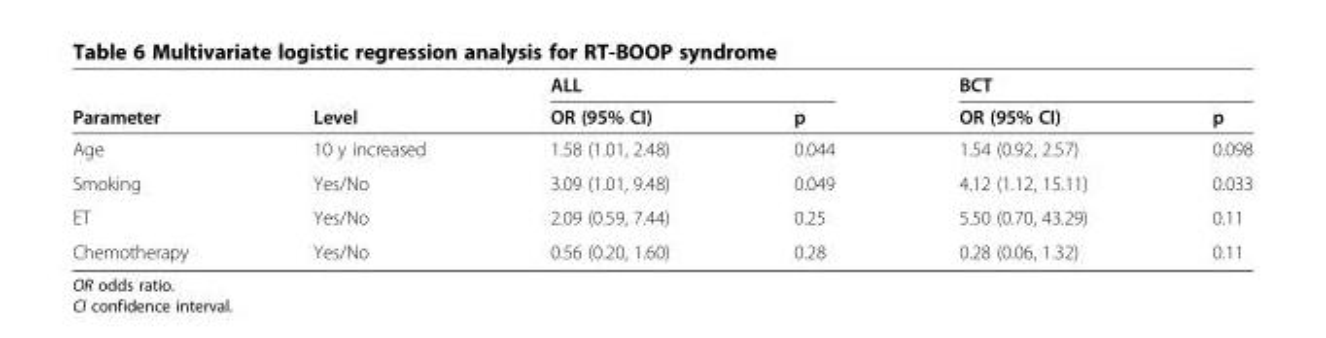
<table><thead><tr><td rowspan="2">Parameter</td><td rowspan="2">Level</td><td colspan="2">ALL</td><td colspan="2">BCT</td></tr><tr><td>OR (95% CI)</td><td>p</td><td>OR (95% CI)</td><td>p</td></tr></thead><tbody><tr><td>Age</td><td>10 y increased</td><td>1.58 (1.01, 2.48)</td><td>0.044</td><td>1.54 (0.92, 2.57)</td><td>0.098</td></tr><tr><td>Smoking</td><td>Yes/No</td><td>3.09 (1.01, 9.48)</td><td>0.049</td><td>4.12 (1.12, 15.11)</td><td>0.033</td></tr><tr><td>ET</td><td>Yes/No</td><td>2.09 (0.59, 7.44)</td><td>0.25</td><td>5.50 (0.70, 43.29)</td><td>0.11</td></tr><tr><td>Chemotherapy</td><td>Yes/No</td><td>0.56 (0.20, 1.60)</td><td>0.28</td><td>0.28 (0.06, 1.32)</td><td>0.11</td></tr></tbody></table>